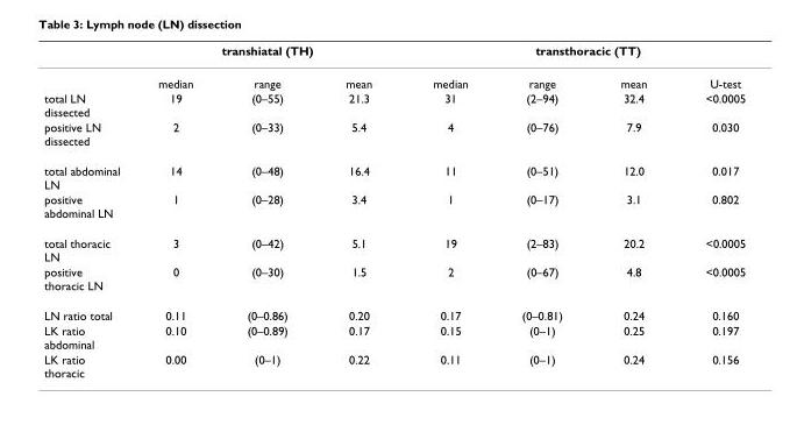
<table><thead><tr><td rowspan="2"></td><td colspan="3">transhiatal (TH)</td><td colspan="4">transthoracic (TT)</td></tr><tr><td>median</td><td>range</td><td>mean</td><td>median</td><td>range</td><td>mean</td><td>U-test</td></tr></thead><tbody><tr><td>total LN dissected</td><td>19</td><td>(0–55)</td><td>21.3</td><td>31</td><td>(2–94)</td><td>32.4</td><td>&lt;0.0005</td></tr><tr><td>positive LN dissected</td><td>2</td><td>(0–33)</td><td>5.4</td><td>4</td><td>(0–76)</td><td>7.9</td><td>0.030</td></tr><tr><td>total abdominal LN</td><td>14</td><td>(0–48)</td><td>16.4</td><td>11</td><td>(0–51)</td><td>12.0</td><td>0.017</td></tr><tr><td>positive abdominal LN</td><td>1</td><td>(0–28)</td><td>3.4</td><td>1</td><td>(0–17)</td><td>3.1</td><td>0.802</td></tr><tr><td>total thoracic LN</td><td>3</td><td>(0–42)</td><td>5.1</td><td>19</td><td>(2–83)</td><td>20.2</td><td>&lt;0.0005</td></tr><tr><td>positive thoracic LN</td><td>0</td><td>(0–30)</td><td>1.5</td><td>2</td><td>(0–67)</td><td>4.8</td><td>&lt;0.0005</td></tr><tr><td>LN ratio total</td><td>0.11</td><td>(0–0.86)</td><td>0.20</td><td>0.17</td><td>(0–0.81)</td><td>0.24</td><td>0.160</td></tr><tr><td>LK ratio abdominal</td><td>0.10</td><td>(0–0.89)</td><td>0.17</td><td>0.15</td><td>(0–1)</td><td>0.25</td><td>0.197</td></tr><tr><td>LK ratio thoracic</td><td>0.00</td><td>(0–1)</td><td>0.22</td><td>0.11</td><td>(0–1)</td><td>0.24</td><td>0.156</td></tr></tbody></table>